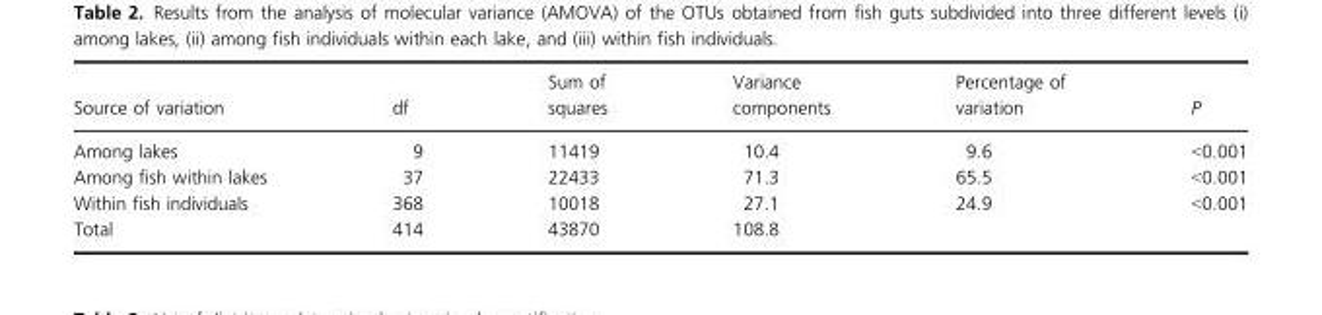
<table><thead><tr><td>Source of variation</td><td>df</td><td>Sum of squares</td><td>Variance components</td><td>Percentage of variation</td><td>P</td></tr></thead><tbody><tr><td>Among lakes</td><td>9</td><td>11419</td><td>10.4</td><td>9.6</td><td>&lt;0.001</td></tr><tr><td>Among fish within lakes</td><td>37</td><td>22433</td><td>71.3</td><td>65.5</td><td>&lt;0.001</td></tr><tr><td>Within fish individuals</td><td>368</td><td>10018</td><td>27.1</td><td>24.9</td><td>&lt;0.001</td></tr><tr><td>Total</td><td>414</td><td>43870</td><td>108.8</td><td></td><td></td></tr></tbody></table>